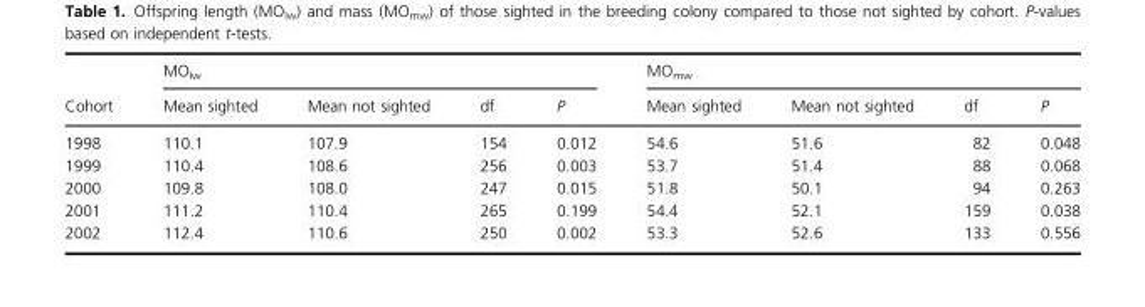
<table><thead><tr><td rowspan="2">Cohort</td><td colspan="4">MO<sub>lw</sub></td><td colspan="4">MO<sub>mw</sub></td></tr><tr><td>Mean sighted</td><td>Mean not sighted</td><td>df</td><td>P</td><td>Mean sighted</td><td>Mean not sighted</td><td>df</td><td>P</td></tr></thead><tbody><tr><td>1998</td><td>110.1</td><td>107.9</td><td>154</td><td>0.012</td><td>54.6</td><td>51.6</td><td>82</td><td>0.048</td></tr><tr><td>1999</td><td>110.4</td><td>108.6</td><td>256</td><td>0.003</td><td>53.7</td><td>51.4</td><td>88</td><td>0.068</td></tr><tr><td>2000</td><td>109.8</td><td>108.0</td><td>247</td><td>0.015</td><td>51.8</td><td>50.1</td><td>94</td><td>0.263</td></tr><tr><td>2001</td><td>111.2</td><td>110.4</td><td>265</td><td>0.199</td><td>54.4</td><td>52.1</td><td>159</td><td>0.038</td></tr><tr><td>2002</td><td>112.4</td><td>110.6</td><td>250</td><td>0.002</td><td>53.3</td><td>52.6</td><td>133</td><td>0.556</td></tr></tbody></table>